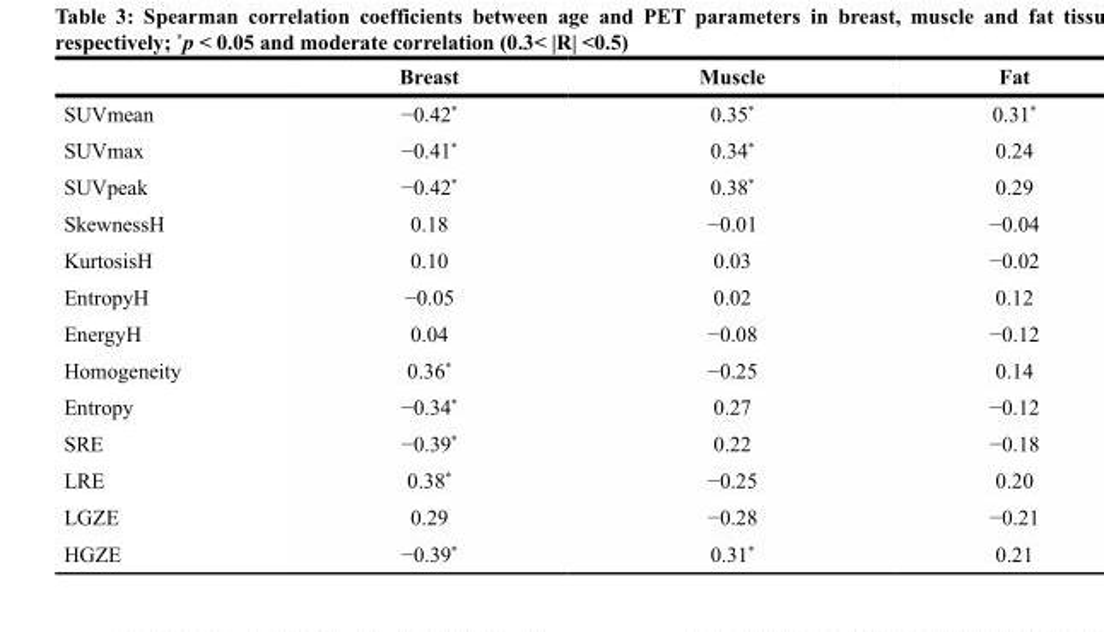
<table><thead><tr><td></td><td>Breast</td><td>Muscle</td><td>Fat</td></tr></thead><tbody><tr><td>SUVmean</td><td>−0.42*</td><td>0.35*</td><td>0.31*</td></tr><tr><td>SUVmax</td><td>−0.41*</td><td>0.34*</td><td>0.24</td></tr><tr><td>SUVpeak</td><td>−0.42*</td><td>0.38*</td><td>0.29</td></tr><tr><td>SkewnessH</td><td>0.18</td><td>−0.01</td><td>−0.04</td></tr><tr><td>KurtosisH</td><td>0.10</td><td>0.03</td><td>−0.02</td></tr><tr><td>EntropyH</td><td>−0.05</td><td>0.02</td><td>0.12</td></tr><tr><td>EnergyH</td><td>0.04</td><td>−0.08</td><td>−0.12</td></tr><tr><td>Homogeneity</td><td>0.36*</td><td>−0.25</td><td>0.14</td></tr><tr><td>Entropy</td><td>−0.34*</td><td>0.27</td><td>−0.12</td></tr><tr><td>SRE</td><td>−0.39*</td><td>0.22</td><td>−0.18</td></tr><tr><td>LRE</td><td>0.38*</td><td>−0.25</td><td>0.20</td></tr><tr><td>LGZE</td><td>0.29</td><td>−0.28</td><td>−0.21</td></tr><tr><td>HGZE</td><td>−0.39*</td><td>0.31*</td><td>0.21</td></tr></tbody></table>